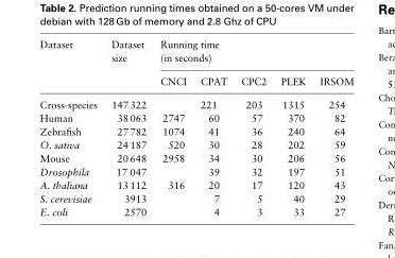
<table><thead><tr><td rowspan="2">Dataset</td><td rowspan="2">Dataset size</td><td colspan="5">Running time (in seconds)</td></tr><tr><td>CNCI</td><td>CPAT</td><td>CPC2</td><td>PLEK</td><td>IRSOM</td></tr></thead><tbody><tr><td>Cross-species</td><td>147 322</td><td></td><td>221</td><td>203</td><td>1315</td><td>254</td></tr><tr><td>Human</td><td>38 063</td><td>2747</td><td>60</td><td>57</td><td>370</td><td>82</td></tr><tr><td>Zebrafish</td><td>27 782</td><td>1074</td><td>41</td><td>36</td><td>240</td><td>64</td></tr><tr><td>O. sativa</td><td>24 187</td><td>520</td><td>30</td><td>28</td><td>202</td><td>59</td></tr><tr><td>Mouse</td><td>20 648</td><td>2958</td><td>34</td><td>30</td><td>206</td><td>56</td></tr><tr><td>Drosophila</td><td>17 047</td><td></td><td>39</td><td>32</td><td>197</td><td>51</td></tr><tr><td>A. thaliana</td><td>13 112</td><td>316</td><td>20</td><td>17</td><td>120</td><td>43</td></tr><tr><td>S. cerevisiae</td><td>3913</td><td></td><td>7</td><td>5</td><td>40</td><td>29</td></tr><tr><td>E. coli</td><td>2570</td><td></td><td>4</td><td>3</td><td>33</td><td>27</td></tr></tbody></table>